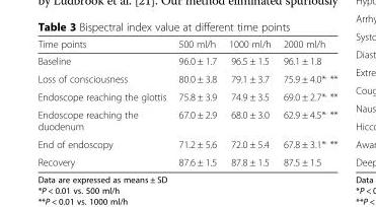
<table><thead><tr><td>Time points</td><td>500 ml/h</td><td>1000 ml/h</td><td>2000 ml/h</td></tr></thead><tbody><tr><td>Baseline</td><td>96.0 ± 1.7</td><td>96.5 ± 1.5</td><td>96.1 ± 1.8</td></tr><tr><td>Loss of consciousness</td><td>80.0 ± 3.8</td><td>79.1 ± 3.7</td><td>75.9 ± 4.0*<sup>,</sup> **</td></tr><tr><td>Endoscope reaching the glottis</td><td>75.8 ± 3.9</td><td>74.9 ± 3.5</td><td>69.0 ± 2.7*<sup>,</sup> **</td></tr><tr><td>Endoscope reaching the duodenum</td><td>67.0 ± 2.9</td><td>68.0 ± 3.0</td><td>62.9 ± 4.5*<sup>,</sup> **</td></tr><tr><td>End of endoscopy</td><td>71.2 ± 5.6</td><td>72.0 ± 5.4</td><td>67.8 ± 3.1*<sup>,</sup> **</td></tr><tr><td>Recovery</td><td>87.6 ± 1.5</td><td>87.8 ± 1.5</td><td>87.5 ± 1.5</td></tr></tbody></table>